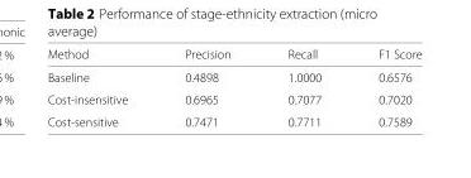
<table><thead><tr><td>Method</td><td>Precision</td><td>Recall</td><td>F1 Score</td></tr></thead><tbody><tr><td>Baseline</td><td>0.4898</td><td>1.0000</td><td>0.6576</td></tr><tr><td>Cost-insensitive</td><td>0.6965</td><td>0.7077</td><td>0.7020</td></tr><tr><td>Cost-sensitive</td><td>0.7471</td><td>0.7711</td><td>0.7589</td></tr></tbody></table>